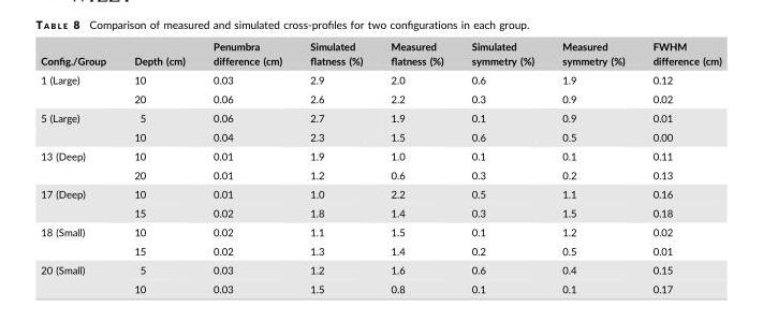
<table><thead><tr><td>Config./Group</td><td>Depth (cm)</td><td>Penumbra difference (cm)</td><td>Simulated flatness (%)</td><td>Measured flatness (%)</td><td>Simulated symmetry (%)</td><td>Measured symmetry (%)</td><td>FWHM difference (cm)</td></tr></thead><tbody><tr><td rowspan="2">1 (Large)</td><td>10</td><td>0.03</td><td>2.9</td><td>2.0</td><td>0.6</td><td>1.9</td><td>0.12</td></tr><tr><td>20</td><td>0.06</td><td>2.6</td><td>2.2</td><td>0.3</td><td>0.9</td><td>0.02</td></tr><tr><td rowspan="2">5 (Large)</td><td>5</td><td>0.06</td><td>2.7</td><td>1.9</td><td>0.1</td><td>0.9</td><td>0.01</td></tr><tr><td>10</td><td>0.04</td><td>2.3</td><td>1.5</td><td>0.6</td><td>0.5</td><td>0.00</td></tr><tr><td rowspan="2">13 (Deep)</td><td>10</td><td>0.01</td><td>1.9</td><td>1.0</td><td>0.1</td><td>0.1</td><td>0.11</td></tr><tr><td>20</td><td>0.01</td><td>1.2</td><td>0.6</td><td>0.3</td><td>0.2</td><td>0.13</td></tr><tr><td rowspan="2">17 (Deep)</td><td>10</td><td>0.01</td><td>1.0</td><td>2.2</td><td>0.5</td><td>1.1</td><td>0.16</td></tr><tr><td>15</td><td>0.02</td><td>1.8</td><td>1.4</td><td>0.3</td><td>1.5</td><td>0.18</td></tr><tr><td rowspan="2">18 (Small)</td><td>10</td><td>0.02</td><td>1.1</td><td>1.5</td><td>0.1</td><td>1.2</td><td>0.02</td></tr><tr><td>15</td><td>0.02</td><td>1.3</td><td>1.4</td><td>0.2</td><td>0.5</td><td>0.01</td></tr><tr><td rowspan="2">20 (Small)</td><td>5</td><td>0.03</td><td>1.2</td><td>1.6</td><td>0.6</td><td>0.4</td><td>0.15</td></tr><tr><td>10</td><td>0.03</td><td>1.5</td><td>0.8</td><td>0.1</td><td>0.1</td><td>0.17</td></tr></tbody></table>